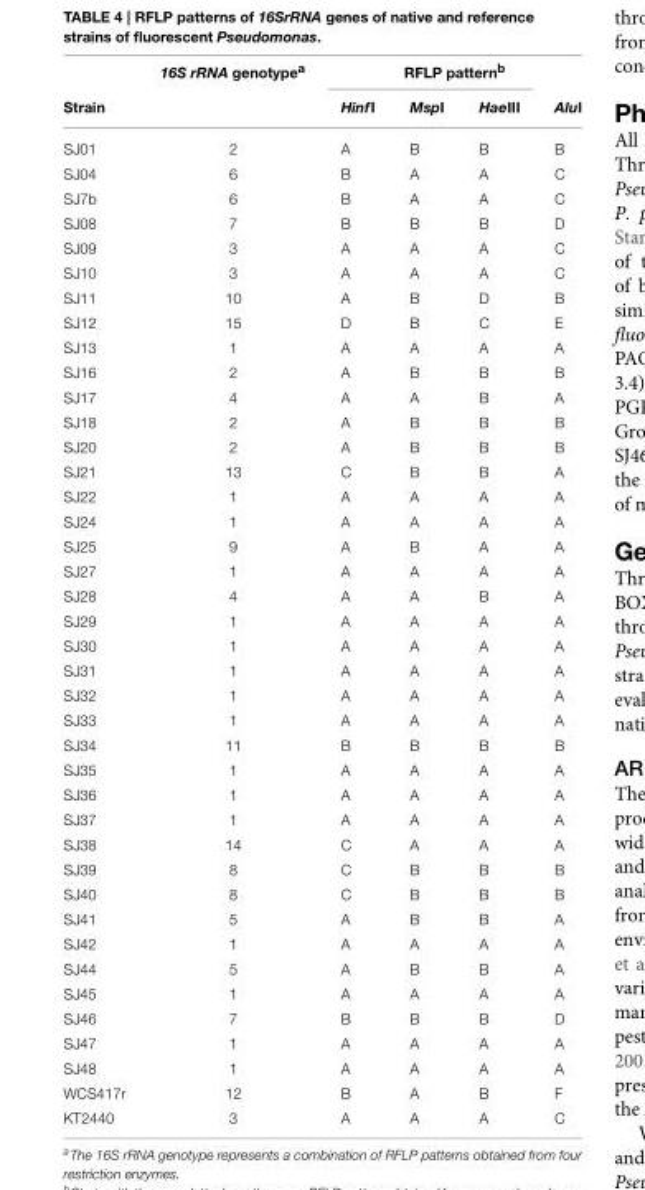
<table><thead><tr><td rowspan="2">Strain</td><td rowspan="2">16S rRNA genotype<sup>a</sup></td><td colspan="4">RFLP pattern<sup>b</sup></td></tr><tr><td>HinfI</td><td>MspI</td><td>HaeIII</td><td>AluI</td></tr></thead><tbody><tr><td>SJ01</td><td>2</td><td>A</td><td>B</td><td>B</td><td>B</td></tr><tr><td>SJ04</td><td>6</td><td>B</td><td>A</td><td>A</td><td>C</td></tr><tr><td>SJ7b</td><td>6</td><td>B</td><td>A</td><td>A</td><td>C</td></tr><tr><td>SJ08</td><td>7</td><td>B</td><td>B</td><td>B</td><td>D</td></tr><tr><td>SJ09</td><td>3</td><td>A</td><td>A</td><td>A</td><td>C</td></tr><tr><td>SJ10</td><td>3</td><td>A</td><td>A</td><td>A</td><td>C</td></tr><tr><td>SJ11</td><td>10</td><td>A</td><td>B</td><td>D</td><td>B</td></tr><tr><td>SJ12</td><td>15</td><td>D</td><td>B</td><td>C</td><td>E</td></tr><tr><td>SJ13</td><td>1</td><td>A</td><td>A</td><td>A</td><td>A</td></tr><tr><td>SJ16</td><td>2</td><td>A</td><td>B</td><td>B</td><td>B</td></tr><tr><td>SJ17</td><td>4</td><td>A</td><td>A</td><td>B</td><td>A</td></tr><tr><td>SJ18</td><td>2</td><td>A</td><td>B</td><td>B</td><td>B</td></tr><tr><td>SJ20</td><td>2</td><td>A</td><td>B</td><td>B</td><td>B</td></tr><tr><td>SJ21</td><td>13</td><td>C</td><td>B</td><td>B</td><td>A</td></tr><tr><td>SJ22</td><td>1</td><td>A</td><td>A</td><td>A</td><td>A</td></tr><tr><td>SJ24</td><td>1</td><td>A</td><td>A</td><td>A</td><td>A</td></tr><tr><td>SJ25</td><td>9</td><td>A</td><td>B</td><td>A</td><td>A</td></tr><tr><td>SJ27</td><td>1</td><td>A</td><td>A</td><td>A</td><td>A</td></tr><tr><td>SJ28</td><td>4</td><td>A</td><td>A</td><td>B</td><td>A</td></tr><tr><td>SJ29</td><td>1</td><td>A</td><td>A</td><td>A</td><td>A</td></tr><tr><td>SJ30</td><td>1</td><td>A</td><td>A</td><td>A</td><td>A</td></tr><tr><td>SJ31</td><td>1</td><td>A</td><td>A</td><td>A</td><td>A</td></tr><tr><td>SJ32</td><td>1</td><td>A</td><td>A</td><td>A</td><td>A</td></tr><tr><td>SJ33</td><td>1</td><td>A</td><td>A</td><td>A</td><td>A</td></tr><tr><td>SJ34</td><td>11</td><td>B</td><td>B</td><td>B</td><td>B</td></tr><tr><td>SJ35</td><td>1</td><td>A</td><td>A</td><td>A</td><td>A</td></tr><tr><td>SJ36</td><td>1</td><td>A</td><td>A</td><td>A</td><td>A</td></tr><tr><td>SJ37</td><td>1</td><td>A</td><td>A</td><td>A</td><td>A</td></tr><tr><td>SJ38</td><td>14</td><td>C</td><td>A</td><td>A</td><td>A</td></tr><tr><td>SJ39</td><td>8</td><td>C</td><td>B</td><td>B</td><td>B</td></tr><tr><td>SJ40</td><td>8</td><td>C</td><td>B</td><td>B</td><td>B</td></tr><tr><td>SJ41</td><td>5</td><td>A</td><td>B</td><td>B</td><td>A</td></tr><tr><td>SJ42</td><td>1</td><td>A</td><td>A</td><td>A</td><td>A</td></tr><tr><td>SJ44</td><td>5</td><td>A</td><td>B</td><td>B</td><td>A</td></tr><tr><td>SJ45</td><td>1</td><td>A</td><td>A</td><td>A</td><td>A</td></tr><tr><td>SJ46</td><td>7</td><td>B</td><td>B</td><td>B</td><td>D</td></tr><tr><td>SJ47</td><td>1</td><td>A</td><td>A</td><td>A</td><td>A</td></tr><tr><td>SJ48</td><td>1</td><td>A</td><td>A</td><td>A</td><td>A</td></tr><tr><td>WCS417r</td><td>12</td><td>B</td><td>A</td><td>B</td><td>F</td></tr><tr><td>KT2440</td><td>3</td><td>A</td><td>A</td><td>A</td><td>C</td></tr></tbody></table>